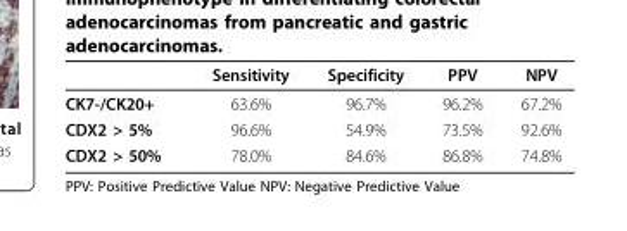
<table><thead><tr><td></td><td>Sensitivity</td><td>Specificity</td><td>PPV</td><td>NPV</td></tr></thead><tbody><tr><td>CK7-/CK20+</td><td>63.6%</td><td>96.7%</td><td>96.2%</td><td>67.2%</td></tr><tr><td>CDX2 &gt; 5%</td><td>96.6%</td><td>54.9%</td><td>73.5%</td><td>92.6%</td></tr><tr><td>CDX2 &gt; 50%</td><td>78.0%</td><td>84.6%</td><td>86.8%</td><td>74.8%</td></tr></tbody></table>